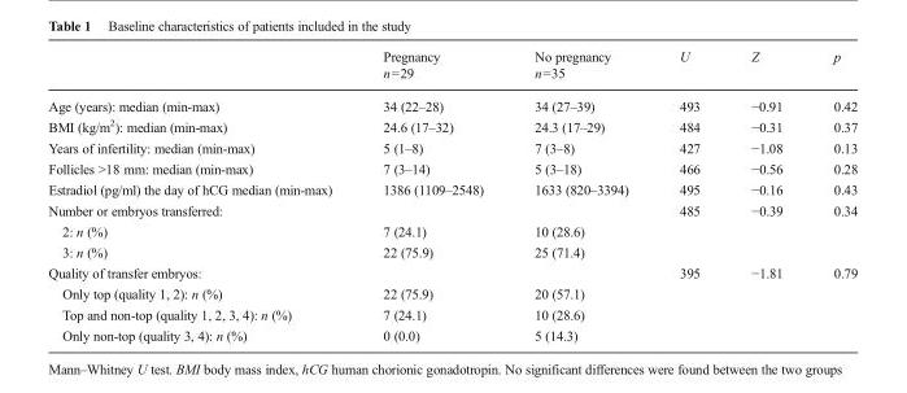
<table><thead><tr><td></td><td>Pregnancy n=29</td><td>No pregnancy n=35</td><td>U</td><td>Z</td><td>p</td></tr></thead><tbody><tr><td>Age (years): median (min-max)</td><td>34 (22–28)</td><td>34 (27–39)</td><td>493</td><td>−0.91</td><td>0.42</td></tr><tr><td>BMI (kg/m<sup>2</sup>): median (min-max)</td><td>24.6 (17–32)</td><td>24.3 (17–29)</td><td>484</td><td>−0.31</td><td>0.37</td></tr><tr><td>Years of infertility: median (min-max)</td><td>5 (1–8)</td><td>7 (3–8)</td><td>427</td><td>−1.08</td><td>0.13</td></tr><tr><td>Follicles &gt;18 mm: median (min-max)</td><td>7 (3–14)</td><td>5 (3–18)</td><td>466</td><td>−0.56</td><td>0.28</td></tr><tr><td>Estradiol (pg/ml) the day of hCG median (min-max)</td><td>1386 (1109–2548)</td><td>1633 (820–3394)</td><td>495</td><td>−0.16</td><td>0.43</td></tr><tr><td>Number or embryos transferred:</td><td></td><td></td><td>485</td><td>−0.39</td><td>0.34</td></tr><tr><td>2: n (%)</td><td>7 (24.1)</td><td>10 (28.6)</td><td></td><td></td><td></td></tr><tr><td>3: n (%)</td><td>22 (75.9)</td><td>25 (71.4)</td><td></td><td></td><td></td></tr><tr><td>Quality of transfer embryos:</td><td></td><td></td><td>395</td><td>−1.81</td><td>0.79</td></tr><tr><td>Only top (quality 1, 2): n (%)</td><td>22 (75.9)</td><td>20 (57.1)</td><td></td><td></td><td></td></tr><tr><td>Top and non-top (quality 1, 2, 3, 4): n (%)</td><td>7 (24.1)</td><td>10 (28.6)</td><td></td><td></td><td></td></tr><tr><td>Only non-top (quality 3, 4): n (%)</td><td>0 (0.0)</td><td>5 (14.3)</td><td></td><td></td><td></td></tr></tbody></table>